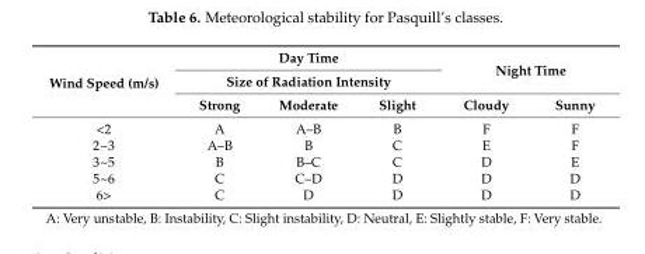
<table><thead><tr><td rowspan="3">Wind Speed (m/s)</td><td rowspan="2" colspan="3">Day Time Size of Radiation Intensity</td><td rowspan="2" colspan="2">Night Time</td></tr><tr></tr><tr><td>Strong</td><td>Moderate</td><td>Slight</td><td>Cloudy</td><td>Sunny</td></tr></thead><tbody><tr><td>&lt;2</td><td>A</td><td>A–B</td><td>B</td><td>F</td><td>F</td></tr><tr><td>2~3</td><td>A–B</td><td>B</td><td>C</td><td>E</td><td>F</td></tr><tr><td>3~5</td><td>B</td><td>B–C</td><td>C</td><td>D</td><td>E</td></tr><tr><td>5~6</td><td>C</td><td>C–D</td><td>D</td><td>D</td><td>D</td></tr><tr><td>6&gt;</td><td>C</td><td>D</td><td>D</td><td>D</td><td>D</td></tr></tbody></table>